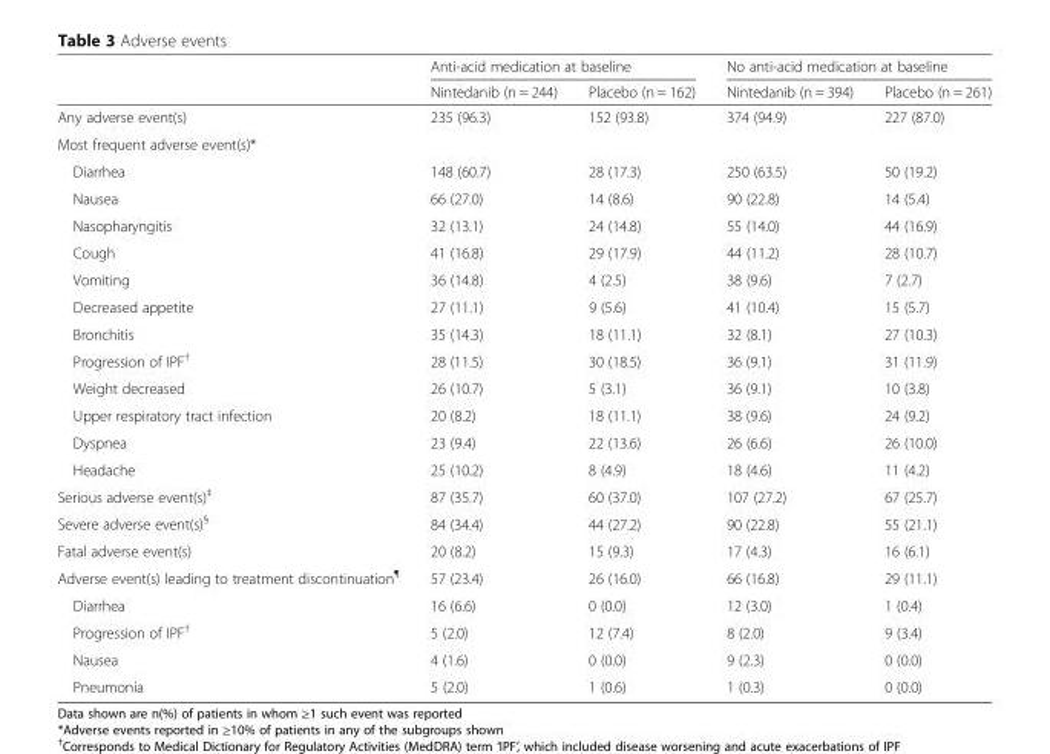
<table><thead><tr><td rowspan="2"></td><td colspan="2">Anti-acid medication at baseline</td><td colspan="2">No anti-acid medication at baseline</td></tr><tr><td>Nintedanib (n = 244)</td><td>Placebo (n = 162)</td><td>Nintedanib (n = 394)</td><td>Placebo (n = 261)</td></tr></thead><tbody><tr><td>Any adverse event(s)</td><td>235 (96.3)</td><td>152 (93.8)</td><td>374 (94.9)</td><td>227 (87.0)</td></tr><tr><td colspan="5">Most frequent adverse event(s)*</td></tr><tr><td>Diarrhea</td><td>148 (60.7)</td><td>28 (17.3)</td><td>250 (63.5)</td><td>50 (19.2)</td></tr><tr><td>Nausea</td><td>66 (27.0)</td><td>14 (8.6)</td><td>90 (22.8)</td><td>14 (5.4)</td></tr><tr><td>Nasopharyngitis</td><td>32 (13.1)</td><td>24 (14.8)</td><td>55 (14.0)</td><td>44 (16.9)</td></tr><tr><td>Cough</td><td>41 (16.8)</td><td>29 (17.9)</td><td>44 (11.2)</td><td>28 (10.7)</td></tr><tr><td>Vomiting</td><td>36 (14.8)</td><td>4 (2.5)</td><td>38 (9.6)</td><td>7 (2.7)</td></tr><tr><td>Decreased appetite</td><td>27 (11.1)</td><td>9 (5.6)</td><td>41 (10.4)</td><td>15 (5.7)</td></tr><tr><td>Bronchitis</td><td>35 (14.3)</td><td>18 (11.1)</td><td>32 (8.1)</td><td>27 (10.3)</td></tr><tr><td>Progression of IPF<sup>†</sup></td><td>28 (11.5)</td><td>30 (18.5)</td><td>36 (9.1)</td><td>31 (11.9)</td></tr><tr><td>Weight decreased</td><td>26 (10.7)</td><td>5 (3.1)</td><td>36 (9.1)</td><td>10 (3.8)</td></tr><tr><td>Upper respiratory tract infection</td><td>20 (8.2)</td><td>18 (11.1)</td><td>38 (9.6)</td><td>24 (9.2)</td></tr><tr><td>Dyspnea</td><td>23 (9.4)</td><td>22 (13.6)</td><td>26 (6.6)</td><td>26 (10.0)</td></tr><tr><td>Headache</td><td>25 (10.2)</td><td>8 (4.9)</td><td>18 (4.6)</td><td>11 (4.2)</td></tr><tr><td>Serious adverse event(s)<sup>‡</sup></td><td>87 (35.7)</td><td>60 (37.0)</td><td>107 (27.2)</td><td>67 (25.7)</td></tr><tr><td>Severe adverse event(s)<sup>§</sup></td><td>84 (34.4)</td><td>44 (27.2)</td><td>90 (22.8)</td><td>55 (21.1)</td></tr><tr><td>Fatal adverse event(s)</td><td>20 (8.2)</td><td>15 (9.3)</td><td>17 (4.3)</td><td>16 (6.1)</td></tr><tr><td>Adverse event(s) leading to treatment discontinuation<sup>¶</sup></td><td>57 (23.4)</td><td>26 (16.0)</td><td>66 (16.8)</td><td>29 (11.1)</td></tr><tr><td>Diarrhea</td><td>16 (6.6)</td><td>0 (0.0)</td><td>12 (3.0)</td><td>1 (0.4)</td></tr><tr><td>Progression of IPF<sup>†</sup></td><td>5 (2.0)</td><td>12 (7.4)</td><td>8 (2.0)</td><td>9 (3.4)</td></tr><tr><td>Nausea</td><td>4 (1.6)</td><td>0 (0.0)</td><td>9 (2.3)</td><td>0 (0.0)</td></tr><tr><td>Pneumonia</td><td>5 (2.0)</td><td>1 (0.6)</td><td>1 (0.3)</td><td>0 (0.0)</td></tr></tbody></table>